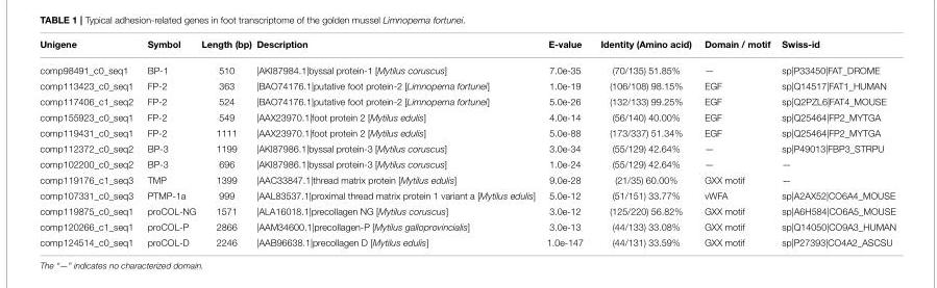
<table><thead><tr><td>Unigene</td><td>Symbol</td><td>Length (bp)</td><td>Description</td><td>E-value</td><td>Identity (Amino acid)</td><td>Domain / motif</td><td>Swiss-id</td></tr></thead><tbody><tr><td>comp98491_c0_seq1</td><td>BP-1</td><td>510</td><td>|AKI87984.1|byssal protein-1 [Mytilus coruscus]</td><td>7.0e-35</td><td>(70/135) 51.85%</td><td>—</td><td>sp|P33450|FAT_DROME</td></tr><tr><td>comp113423_c0_seq1</td><td>FP-2</td><td>363</td><td>|BAO74176.1|putative foot protein-2 [Limnoperna fortunei]</td><td>1.0e-19</td><td>(106/108) 98.15%</td><td>EGF</td><td>sp|Q14517|FAT1_HUMAN</td></tr><tr><td>comp117406_c1_seq2</td><td>FP-2</td><td>524</td><td>|BAO74176.1|putative foot protein-2 [Limnoperna fortunei]</td><td>5.0e-26</td><td>(132/133) 99.25%</td><td>EGF</td><td>sp|Q2PZL6|FAT4_MOUSE</td></tr><tr><td>comp155923_c0_seq1</td><td>FP-2</td><td>549</td><td>|AAX23970.1|foot protein 2 [Mytilus edulis]</td><td>4.0e-14</td><td>(56/140) 40.00%</td><td>EGF</td><td>sp|Q25464|FP2_MYTGA</td></tr><tr><td>comp119431_c0_seq1</td><td>FP-2</td><td>1111</td><td>|AAX23970.1|foot protein 2 [Mytilus edulis]</td><td>5.0e-88</td><td>(173/337) 51.34%</td><td>EGF</td><td>sp|Q25464|FP2_MYTGA</td></tr><tr><td>comp112372_c0_seq2</td><td>BP-3</td><td>1199</td><td>|AKI87986.1|byssal protein-3 [Mytilus coruscus]</td><td>3.0e-34</td><td>(55/129) 42.64%</td><td>—</td><td>sp|P49013|FBP3_STRPU</td></tr><tr><td>comp102200_c0_seq2</td><td>BP-3</td><td>696</td><td>|AKI87986.1|byssal protein-3 [Mytilus coruscus]</td><td>1.0e-24</td><td>(55/129) 42.64%</td><td>—</td><td>—</td></tr><tr><td>comp119176_c1_seq3</td><td>TMP</td><td>1399</td><td>|AAC33847.1|thread matrix protein [Mytilus edulis]</td><td>9.0e-28</td><td>(21/35) 60.00%</td><td>GXX motif</td><td>—</td></tr><tr><td>comp107331_c0_seq3</td><td>PTMP-1a</td><td>999</td><td>|AAL83537.1|proximal thread matrix protein 1 variant a [Mytilus edulis]</td><td>5.0e-12</td><td>(51/151) 33.77%</td><td>vWFA</td><td>sp|A2AX52|CO6A4_MOUSE</td></tr><tr><td>comp119875_c0_seq1</td><td>proCOL-NG</td><td>1571</td><td>|ALA16018.1|precollagen NG [Mytilus coruscus]</td><td>3.0e-12</td><td>(125/220) 56.82%</td><td>GXX motif</td><td>sp|A6H584|CO6A5_MOUSE</td></tr><tr><td>comp120266_c1_seq1</td><td>proCOL-P</td><td>2866</td><td>|AAM34600.1|precollagen-P [Mytilus galloprovincialis]</td><td>3.0e-13</td><td>(44/133) 33.08%</td><td>GXX motif</td><td>sp|Q14050|CO9A3_HUMAN</td></tr><tr><td>comp124514_c0_seq1</td><td>proCOL-D</td><td>2246</td><td>|AAB96638.1|precollagen D [Mytilus edulis]</td><td>1.0e-147</td><td>(44/131) 33.59%</td><td>GXX motif</td><td>sp|P27393|CO4A2_ASCSU</td></tr></tbody></table>